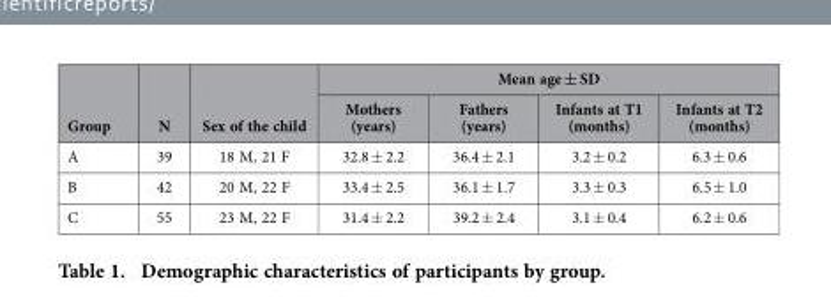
<table><thead><tr><td rowspan="2">Group</td><td rowspan="2">N</td><td rowspan="2">Sex of the child</td><td colspan="4">Mean age ± SD</td></tr><tr><td>Mothers (years)</td><td>Fathers (years)</td><td>Infants at T1 (months)</td><td>Infants at T2 (months)</td></tr></thead><tbody><tr><td>A</td><td>39</td><td>18 M, 21 F</td><td>32.8 ± 2.2</td><td>36.4 ± 2.1</td><td>3.2 ± 0.2</td><td>6.3 ± 0.6</td></tr><tr><td>B</td><td>42</td><td>20 M, 22 F</td><td>33.4 ± 2.5</td><td>36.1 ± 1.7</td><td>3.3 ± 0.3</td><td>6.5 ± 1.0</td></tr><tr><td>C</td><td>55</td><td>23 M, 22 F</td><td>31.4 ± 2.2</td><td>39.2 ± 2.4</td><td>3.1 ± 0.4</td><td>6.2 ± 0.6</td></tr></tbody></table>